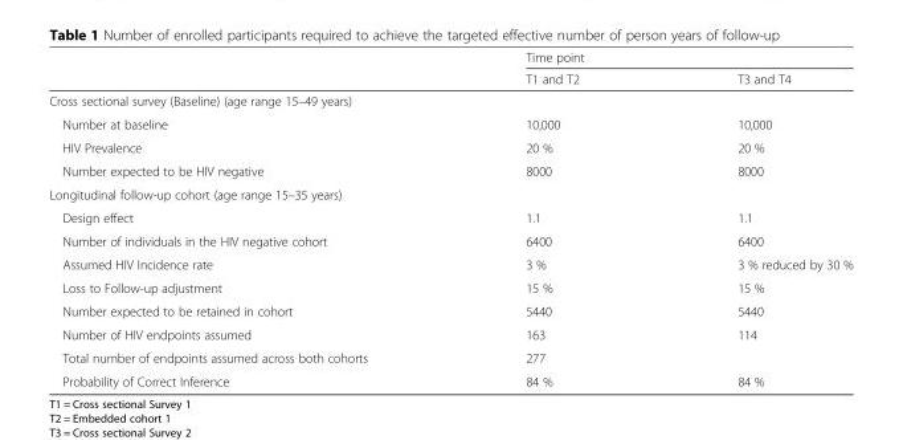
<table><thead><tr><td rowspan="2"></td><td colspan="2">Time point</td></tr><tr><td>T1 and T2</td><td>T3 and T4</td></tr></thead><tbody><tr><td colspan="3">Cross sectional survey (Baseline) (age range 15–49 years)</td></tr><tr><td>Number at baseline</td><td>10,000</td><td>10,000</td></tr><tr><td>HIV Prevalence</td><td>20 %</td><td>20 %</td></tr><tr><td>Number expected to be HIV negative</td><td>8000</td><td>8000</td></tr><tr><td colspan="3">Longitudinal follow-up cohort (age range 15–35 years)</td></tr><tr><td>Design effect</td><td>1.1</td><td>1.1</td></tr><tr><td>Number of individuals in the HIV negative cohort</td><td>6400</td><td>6400</td></tr><tr><td>Assumed HIV Incidence rate</td><td>3 %</td><td>3 % reduced by 30 %</td></tr><tr><td>Loss to Follow-up adjustment</td><td>15 %</td><td>15 %</td></tr><tr><td>Number expected to be retained in cohort</td><td>5440</td><td>5440</td></tr><tr><td>Number of HIV endpoints assumed</td><td>163</td><td>114</td></tr><tr><td>Total number of endpoints assumed across both cohorts</td><td colspan="2">277</td></tr><tr><td>Probability of Correct Inference</td><td>84 %</td><td>84 %</td></tr></tbody></table>